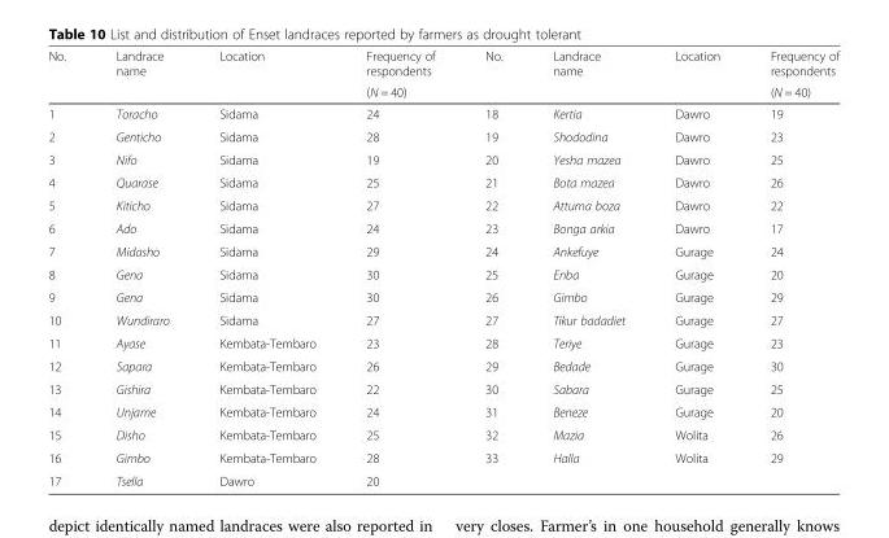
<table><thead><tr><td rowspan="2">No.</td><td rowspan="2">Landrace name</td><td rowspan="2">Location</td><td rowspan="2">Frequency of respondents (N = 40)</td><td rowspan="2">No.</td><td rowspan="2">Landrace name</td><td rowspan="2">Location</td><td rowspan="2">Frequency of respondents (N = 40)</td></tr><tr></tr></thead><tbody><tr><td>1</td><td>Toracho</td><td>Sidama</td><td>24</td><td>18</td><td>Kertia</td><td>Dawro</td><td>19</td></tr><tr><td>2</td><td>Genticho</td><td>Sidama</td><td>28</td><td>19</td><td>Shododina</td><td>Dawro</td><td>23</td></tr><tr><td>3</td><td>Nifo</td><td>Sidama</td><td>19</td><td>20</td><td>Yesha mazea</td><td>Dawro</td><td>25</td></tr><tr><td>4</td><td>Quarase</td><td>Sidama</td><td>25</td><td>21</td><td>Bota mazea</td><td>Dawro</td><td>26</td></tr><tr><td>5</td><td>Kiticho</td><td>Sidama</td><td>27</td><td>22</td><td>Attuma boza</td><td>Dawro</td><td>22</td></tr><tr><td>6</td><td>Ado</td><td>Sidama</td><td>24</td><td>23</td><td>Bonga arkia</td><td>Dawro</td><td>17</td></tr><tr><td>7</td><td>Midasho</td><td>Sidama</td><td>29</td><td>24</td><td>Ankefuye</td><td>Gurage</td><td>24</td></tr><tr><td>8</td><td>Gena</td><td>Sidama</td><td>30</td><td>25</td><td>Enba</td><td>Gurage</td><td>20</td></tr><tr><td>9</td><td>Gena</td><td>Sidama</td><td>30</td><td>26</td><td>Gimbo</td><td>Gurage</td><td>29</td></tr><tr><td>10</td><td>Wundiraro</td><td>Sidama</td><td>27</td><td>27</td><td>Tikur badadiet</td><td>Gurage</td><td>27</td></tr><tr><td>11</td><td>Ayase</td><td>Kembata-Tembaro</td><td>23</td><td>28</td><td>Teriye</td><td>Gurage</td><td>23</td></tr><tr><td>12</td><td>Sapara</td><td>Kembata-Tembaro</td><td>26</td><td>29</td><td>Bedade</td><td>Gurage</td><td>30</td></tr><tr><td>13</td><td>Gishira</td><td>Kembata-Tembaro</td><td>22</td><td>30</td><td>Sabara</td><td>Gurage</td><td>25</td></tr><tr><td>14</td><td>Unjame</td><td>Kembata-Tembaro</td><td>24</td><td>31</td><td>Beneze</td><td>Gurage</td><td>20</td></tr><tr><td>15</td><td>Disho</td><td>Kembata-Tembaro</td><td>25</td><td>32</td><td>Mazia</td><td>Wolita</td><td>26</td></tr><tr><td>16</td><td>Gimbo</td><td>Kembata-Tembaro</td><td>28</td><td>33</td><td>Halla</td><td>Wolita</td><td>29</td></tr><tr><td>17</td><td>Tsella</td><td>Dawro</td><td>20</td><td></td><td></td><td></td><td></td></tr></tbody></table>